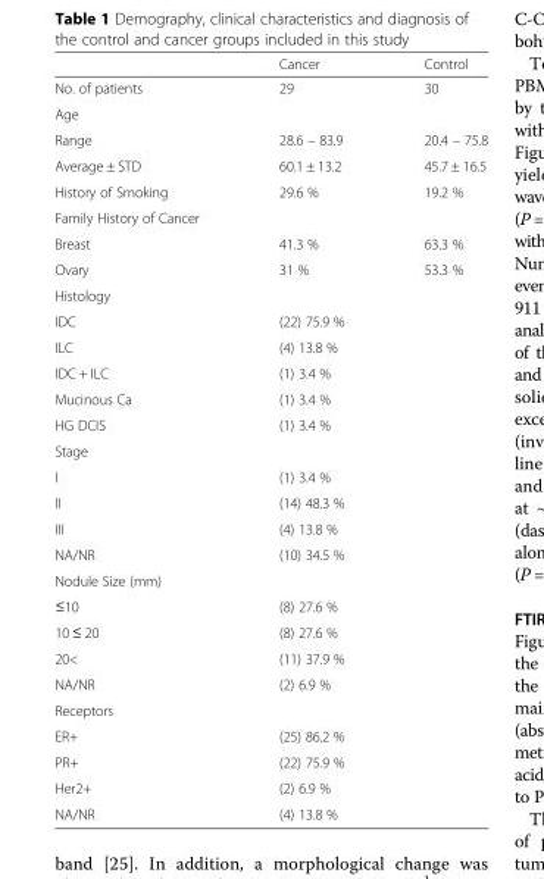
<table><thead><tr><td></td><td>Cancer</td><td>Control</td></tr></thead><tbody><tr><td>No. of patients</td><td>29</td><td>30</td></tr><tr><td colspan="3">Age</td></tr><tr><td>Range</td><td>28.6 – 83.9</td><td>20.4 – 75.8</td></tr><tr><td>Average ± STD</td><td>60.1 ± 13.2</td><td>45.7 ± 16.5</td></tr><tr><td>History of Smoking</td><td>29.6 %</td><td>19.2 %</td></tr><tr><td colspan="3">Family History of Cancer</td></tr><tr><td>Breast</td><td>41.3 %</td><td>63.3 %</td></tr><tr><td>Ovary</td><td>31 %</td><td>53.3 %</td></tr><tr><td colspan="3">Histology</td></tr><tr><td>IDC</td><td>(22) 75.9 %</td><td></td></tr><tr><td>ILC</td><td>(4) 13.8 %</td><td></td></tr><tr><td>IDC + ILC</td><td>(1) 3.4 %</td><td></td></tr><tr><td>Mucinous Ca</td><td>(1) 3.4 %</td><td></td></tr><tr><td>HG DCIS</td><td>(1) 3.4 %</td><td></td></tr><tr><td colspan="3">Stage</td></tr><tr><td>I</td><td>(1) 3.4 %</td><td></td></tr><tr><td>II</td><td>(14) 48.3 %</td><td></td></tr><tr><td>III</td><td>(4) 13.8 %</td><td></td></tr><tr><td>NA/NR</td><td>(10) 34.5 %</td><td></td></tr><tr><td colspan="3">Nodule Size (mm)</td></tr><tr><td>≤10</td><td>(8) 27.6 %</td><td></td></tr><tr><td>10 ≤ 20</td><td>(8) 27.6 %</td><td></td></tr><tr><td>20&lt;</td><td>(11) 37.9 %</td><td></td></tr><tr><td>NA/NR</td><td>(2) 6.9 %</td><td></td></tr><tr><td colspan="3">Receptors</td></tr><tr><td>ER+</td><td>(25) 86.2 %</td><td></td></tr><tr><td>PR+</td><td>(22) 75.9 %</td><td></td></tr><tr><td>Her2+</td><td>(2) 6.9 %</td><td></td></tr><tr><td>NA/NR</td><td>(4) 13.8 %</td><td></td></tr></tbody></table>